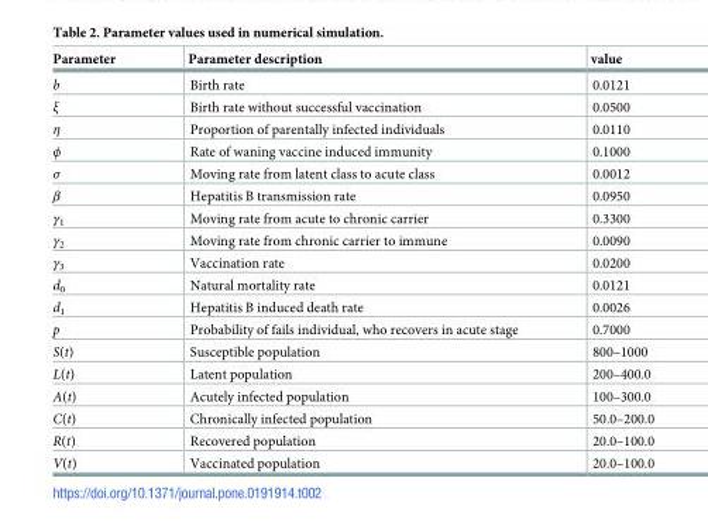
<table><thead><tr><td>Parameter</td><td>Parameter description</td><td>value</td></tr></thead><tbody><tr><td>b</td><td>Birth rate</td><td>0.0121</td></tr><tr><td>ξ</td><td>Birth rate without successful vaccination</td><td>0.0500</td></tr><tr><td>η</td><td>Proportion of parentally infected individuals</td><td>0.0110</td></tr><tr><td>ϕ</td><td>Rate of waning vaccine induced immunity</td><td>0.1000</td></tr><tr><td>σ</td><td>Moving rate from latent class to acute class</td><td>0.0012</td></tr><tr><td>β</td><td>Hepatitis B transmission rate</td><td>0.0950</td></tr><tr><td>γ<sub>1</sub></td><td>Moving rate from acute to chronic carrier</td><td>0.3300</td></tr><tr><td>γ<sub>2</sub></td><td>Moving rate from chronic carrier to immune</td><td>0.0090</td></tr><tr><td>γ<sub>3</sub></td><td>Vaccination rate</td><td>0.0200</td></tr><tr><td>d<sub>0</sub></td><td>Natural mortality rate</td><td>0.0121</td></tr><tr><td>d<sub>1</sub></td><td>Hepatitis B induced death rate</td><td>0.0026</td></tr><tr><td>p</td><td>Probability of fails individual, who recovers in acute stage</td><td>0.7000</td></tr><tr><td>S(t)</td><td>Susceptible population</td><td>800–1000</td></tr><tr><td>L(t)</td><td>Latent population</td><td>200–400.0</td></tr><tr><td>A(t)</td><td>Acutely infected population</td><td>100–300.0</td></tr><tr><td>C(t)</td><td>Chronically infected population</td><td>50.0–200.0</td></tr><tr><td>R(t)</td><td>Recovered population</td><td>20.0–100.0</td></tr><tr><td>V(t)</td><td>Vaccinated population</td><td>20.0–100.0</td></tr></tbody></table>